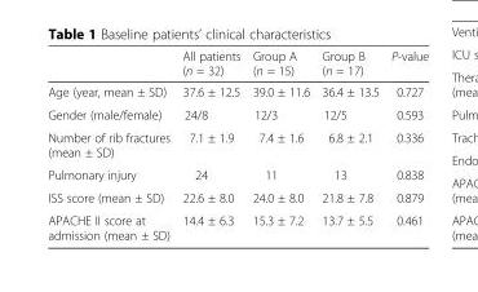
<table><thead><tr><td></td><td>All patients (n = 32)</td><td>Group A (n = 15)</td><td>Group B (n = 17)</td><td>P-value</td></tr></thead><tbody><tr><td>Age (year, mean ± SD)</td><td>37.6 ± 12.5</td><td>39.0 ± 11.6</td><td>36.4 ± 13.5</td><td>0.727</td></tr><tr><td>Gender (male/female)</td><td>24/8</td><td>12/3</td><td>12/5</td><td>0.593</td></tr><tr><td>Number of rib fractures (mean ± SD)</td><td>7.1 ± 1.9</td><td>7.4 ± 1.6</td><td>6.8 ± 2.1</td><td>0.336</td></tr><tr><td>Pulmonary injury</td><td>24</td><td>11</td><td>13</td><td>0.838</td></tr><tr><td>ISS score (mean ± SD)</td><td>22.6 ± 8.0</td><td>24.0 ± 8.0</td><td>21.8 ± 7.8</td><td>0.879</td></tr><tr><td>APACHE II score at admission (mean ± SD)</td><td>14.4 ± 6.3</td><td>15.3 ± 7.2</td><td>13.7 ± 5.5</td><td>0.461</td></tr></tbody></table>